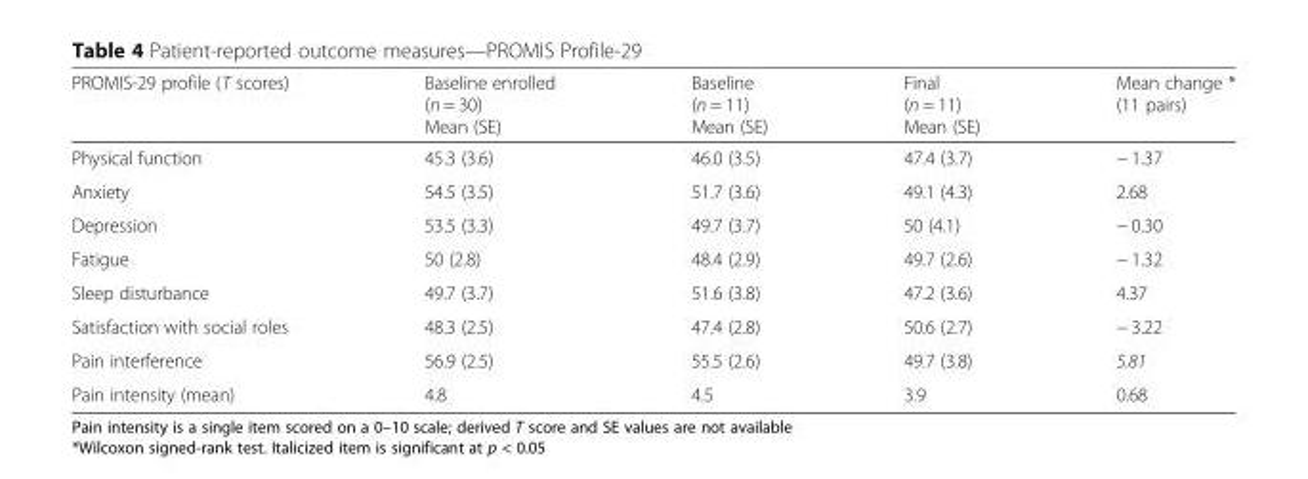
<table><thead><tr><td>PROMIS-29 profile (T scores)</td><td>Baseline enrolled (n = 30) Mean (SE)</td><td>Baseline (n = 11) Mean (SE)</td><td>Final (n = 11) Mean (SE)</td><td>Mean change * (11 pairs)</td></tr></thead><tbody><tr><td>Physical function</td><td>45.3 (3.6)</td><td>46.0 (3.5)</td><td>47.4 (3.7)</td><td>− 1.37</td></tr><tr><td>Anxiety</td><td>54.5 (3.5)</td><td>51.7 (3.6)</td><td>49.1 (4.3)</td><td>2.68</td></tr><tr><td>Depression</td><td>53.5 (3.3)</td><td>49.7 (3.7)</td><td>50 (4.1)</td><td>− 0.30</td></tr><tr><td>Fatigue</td><td>50 (2.8)</td><td>48.4 (2.9)</td><td>49.7 (2.6)</td><td>− 1.32</td></tr><tr><td>Sleep disturbance</td><td>49.7 (3.7)</td><td>51.6 (3.8)</td><td>47.2 (3.6)</td><td>4.37</td></tr><tr><td>Satisfaction with social roles</td><td>48.3 (2.5)</td><td>47.4 (2.8)</td><td>50.6 (2.7)</td><td>− 3.22</td></tr><tr><td>Pain interference</td><td>56.9 (2.5)</td><td>55.5 (2.6)</td><td>49.7 (3.8)</td><td>5.81</td></tr><tr><td>Pain intensity (mean)</td><td>4.8</td><td>4.5</td><td>3.9</td><td>0.68</td></tr></tbody></table>